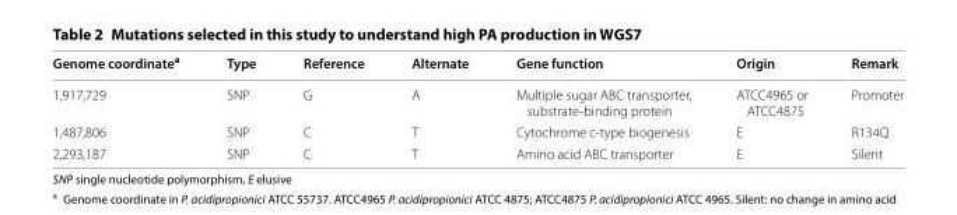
<table><thead><tr><td>Genome coordinate<sup>a</sup></td><td>Type</td><td>Reference</td><td>Alternate</td><td>Gene function</td><td>Origin</td><td>Remark</td></tr></thead><tbody><tr><td>1,917,729</td><td>SNP</td><td>G</td><td>A</td><td>Multiple sugar ABC transporter, substrate‑binding protein</td><td>ATCC4965 or ATCC4875</td><td>Promoter</td></tr><tr><td>1,487,806</td><td>SNP</td><td>C</td><td>T</td><td>Cytochrome c‑type biogenesis</td><td>E</td><td>R134Q</td></tr><tr><td>2,293,187</td><td>SNP</td><td>C</td><td>T</td><td>Amino acid ABC transporter</td><td>E</td><td>Silent</td></tr></tbody></table>